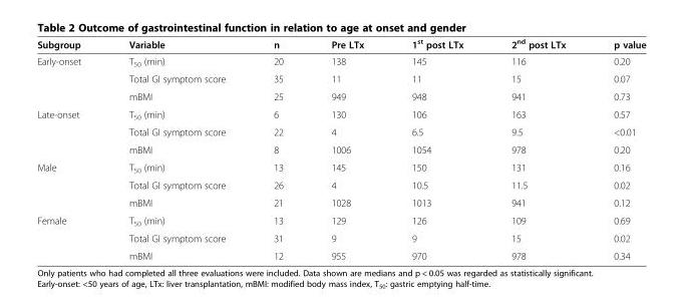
<table><thead><tr><td>Subgroup</td><td>Variable</td><td>n</td><td>Pre LTx</td><td>1<sup>st</sup> post LTx</td><td>2<sup>nd</sup> post LTx</td><td>p value</td></tr></thead><tbody><tr><td rowspan="3">Early-onset</td><td>T<sub>50</sub> (min)</td><td>20</td><td>138</td><td>145</td><td>116</td><td>0.20</td></tr><tr><td>Total GI symptom score</td><td>35</td><td>11</td><td>11</td><td>15</td><td>0.07</td></tr><tr><td>mBMI</td><td>25</td><td>949</td><td>948</td><td>941</td><td>0.73</td></tr><tr><td rowspan="3">Late-onset</td><td>T<sub>50</sub> (min)</td><td>6</td><td>130</td><td>106</td><td>163</td><td>0.57</td></tr><tr><td>Total GI symptom score</td><td>22</td><td>4</td><td>6.5</td><td>9.5</td><td>&lt;0.01</td></tr><tr><td>mBMI</td><td>8</td><td>1006</td><td>1054</td><td>978</td><td>0.20</td></tr><tr><td rowspan="3">Male</td><td>T<sub>50</sub> (min)</td><td>13</td><td>145</td><td>150</td><td>131</td><td>0.16</td></tr><tr><td>Total GI symptom score</td><td>26</td><td>4</td><td>10.5</td><td>11.5</td><td>0.02</td></tr><tr><td>mBMI</td><td>21</td><td>1028</td><td>1013</td><td>941</td><td>0.12</td></tr><tr><td rowspan="3">Female</td><td>T<sub>50</sub> (min)</td><td>13</td><td>129</td><td>126</td><td>109</td><td>0.69</td></tr><tr><td>Total GI symptom score</td><td>31</td><td>9</td><td>9</td><td>15</td><td>0.02</td></tr><tr><td>mBMI</td><td>12</td><td>955</td><td>970</td><td>978</td><td>0.34</td></tr></tbody></table>